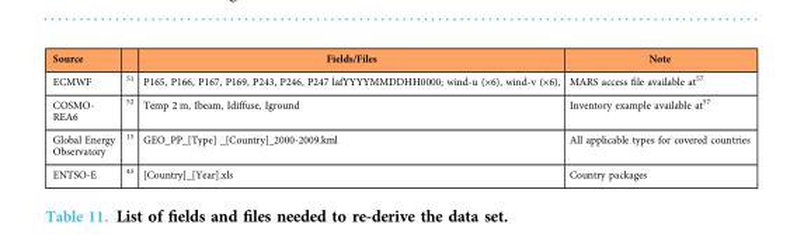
<table><thead><tr><td>Source</td><td></td><td>Fields/Files</td><td>Note</td></tr></thead><tbody><tr><td>ECMWF</td><td><sup>51</sup></td><td>P165, P166, P167, P169, P243, P246, P247 lafYYYYMMDDHH0000; wind-u (×6), wind-v (×6),</td><td>MARS access file available at<sup>57</sup></td></tr><tr><td>COSMO- REA6</td><td><sup>52</sup></td><td>Temp 2 m, Ibeam, Idiffuse, Iground</td><td>Inventory example available at<sup>57</sup></td></tr><tr><td>Global Energy Observatory</td><td><sup>15</sup></td><td>GEO_PP_[Type] _[Country]_2000-2009.kml</td><td>All applicable types for covered countries</td></tr><tr><td>ENTSO-E</td><td><sup>45</sup></td><td>[Country]_[Year].xls</td><td>Country packages</td></tr></tbody></table>